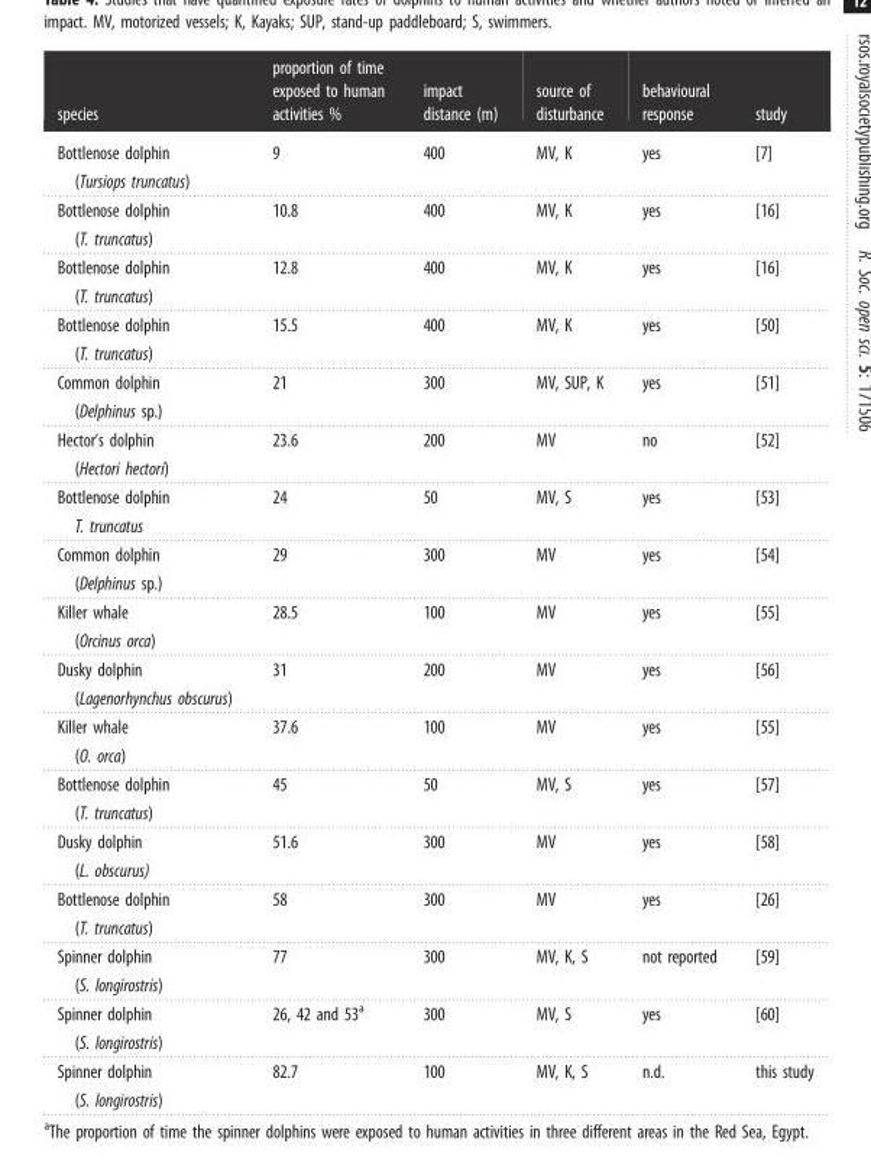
<table><thead><tr><td>species</td><td>proportion of time exposed to human activities %</td><td>impact distance (m)</td><td>source of disturbance</td><td>behavioural response</td><td>study</td></tr></thead><tbody><tr><td>Bottlenose dolphin (Tursiops truncatus)</td><td>9</td><td>400</td><td>MV, K</td><td>yes</td><td>[7]</td></tr><tr><td>Bottlenose dolphin (T. truncatus)</td><td>10.8</td><td>400</td><td>MV, K</td><td>yes</td><td>[16]</td></tr><tr><td>Bottlenose dolphin (T. truncatus)</td><td>12.8</td><td>400</td><td>MV, K</td><td>yes</td><td>[16]</td></tr><tr><td>Bottlenose dolphin (T. truncatus)</td><td>15.5</td><td>400</td><td>MV, K</td><td>yes</td><td>[50]</td></tr><tr><td>Common dolphin (Delphinus sp.)</td><td>21</td><td>300</td><td>MV, SUP, K</td><td>yes</td><td>[51]</td></tr><tr><td>Hector’s dolphin (Hectori hectori)</td><td>23.6</td><td>200</td><td>MV</td><td>no</td><td>[52]</td></tr><tr><td>Bottlenose dolphin T. truncatus</td><td>24</td><td>50</td><td>MV, S</td><td>yes</td><td>[53]</td></tr><tr><td>Common dolphin (Delphinus sp.)</td><td>29</td><td>300</td><td>MV</td><td>yes</td><td>[54]</td></tr><tr><td>Killer whale (Orcinus orca)</td><td>28.5</td><td>100</td><td>MV</td><td>yes</td><td>[55]</td></tr><tr><td>Dusky dolphin (Lagenorhynchus obscurus)</td><td>31</td><td>200</td><td>MV</td><td>yes</td><td>[56]</td></tr><tr><td>Killer whale (O. orca)</td><td>37.6</td><td>100</td><td>MV</td><td>yes</td><td>[55]</td></tr><tr><td>Bottlenose dolphin (T. truncatus)</td><td>45</td><td>50</td><td>MV, S</td><td>yes</td><td>[57]</td></tr><tr><td>Dusky dolphin (L. obscurus)</td><td>51.6</td><td>300</td><td>MV</td><td>yes</td><td>[58]</td></tr><tr><td>Bottlenose dolphin (T. truncatus)</td><td>58</td><td>300</td><td>MV</td><td>yes</td><td>[26]</td></tr><tr><td>Spinner dolphin (S. longirostris)</td><td>77</td><td>300</td><td>MV, K, S</td><td>not reported</td><td>[59]</td></tr><tr><td>Spinner dolphin (S. longirostris)</td><td>26, 42 and 53<sup>a</sup></td><td>300</td><td>MV, S</td><td>yes</td><td>[60]</td></tr><tr><td>Spinner dolphin (S. longirostris)</td><td>82.7</td><td>100</td><td>MV, K, S</td><td>n.d.</td><td>this study</td></tr></tbody></table>